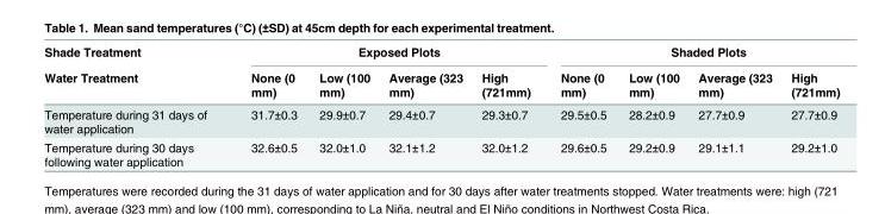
<table><thead><tr><td rowspan="2">Shade Treatment Water Treatment</td><td colspan="4">Exposed Plots</td><td colspan="4">Shaded Plots</td></tr><tr><td>None (0 mm)</td><td>Low (100 mm)</td><td>Average (323 mm)</td><td>High (721mm)</td><td>None (0 mm)</td><td>Low (100 mm)</td><td>Average (323 mm)</td><td>High (721mm)</td></tr></thead><tbody><tr><td>Temperature during 31 days of water application</td><td>31.7±0.3</td><td>29.9±0.7</td><td>29.4±0.7</td><td>29.3±0.7</td><td>29.5±0.5</td><td>28.2±0.9</td><td>27.7±0.9</td><td>27.7±0.9</td></tr><tr><td>Temperature during 30 days following water application</td><td>32.6±0.5</td><td>32.0±1.0</td><td>32.1±1.2</td><td>32.0±1.2</td><td>29.6±0.5</td><td>29.2±0.9</td><td>29.1±1.1</td><td>29.2±1.0</td></tr></tbody></table>